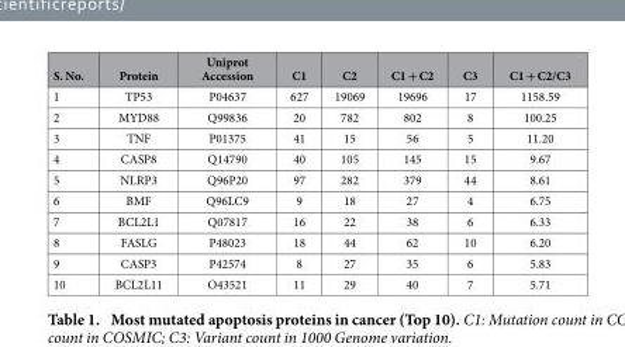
<table><thead><tr><td>S. No.</td><td>Protein</td><td>Uniprot Accession</td><td>C1</td><td>C2</td><td>C1 + C2</td><td>C3</td><td>C1 + C2/C3</td></tr></thead><tbody><tr><td>1</td><td>TP53</td><td>P04637</td><td>627</td><td>19069</td><td>19696</td><td>17</td><td>1158.59</td></tr><tr><td>2</td><td>MYD88</td><td>Q99836</td><td>20</td><td>782</td><td>802</td><td>8</td><td>100.25</td></tr><tr><td>3</td><td>TNF</td><td>P01375</td><td>41</td><td>15</td><td>56</td><td>5</td><td>11.20</td></tr><tr><td>4</td><td>CASP8</td><td>Q14790</td><td>40</td><td>105</td><td>145</td><td>15</td><td>9.67</td></tr><tr><td>5</td><td>NLRP3</td><td>Q96P20</td><td>97</td><td>282</td><td>379</td><td>44</td><td>8.61</td></tr><tr><td>6</td><td>BMF</td><td>Q96LC9</td><td>9</td><td>18</td><td>27</td><td>4</td><td>6.75</td></tr><tr><td>7</td><td>BCL2L1</td><td>Q07817</td><td>16</td><td>22</td><td>38</td><td>6</td><td>6.33</td></tr><tr><td>8</td><td>FASLG</td><td>P48023</td><td>18</td><td>44</td><td>62</td><td>10</td><td>6.20</td></tr><tr><td>9</td><td>CASP3</td><td>P42574</td><td>8</td><td>27</td><td>35</td><td>6</td><td>5.83</td></tr><tr><td>10</td><td>BCL2L11</td><td>O43521</td><td>11</td><td>29</td><td>40</td><td>7</td><td>5.71</td></tr></tbody></table>